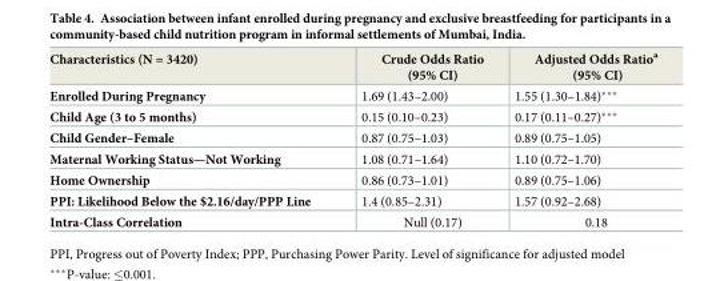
<table><thead><tr><td>Characteristics (N = 3420)</td><td>Crude Odds Ratio (95% CI)</td><td>Adjusted Odds Ratio<sup>a</sup> (95% CI)</td></tr></thead><tbody><tr><td>Enrolled During Pregnancy</td><td>1.69 (1.43–2.00)</td><td>1.55 (1.30–1.84)***</td></tr><tr><td>Child Age (3 to 5 months)</td><td>0.15 (0.10–0.23)</td><td>0.17 (0.11–0.27)***</td></tr><tr><td>Child Gender–Female</td><td>0.87 (0.75–1.03)</td><td>0.89 (0.75–1.05)</td></tr><tr><td>Maternal Working Status—Not Working</td><td>1.08 (0.71–1.64)</td><td>1.10 (0.72–1.70)</td></tr><tr><td>Home Ownership</td><td>0.86 (0.73–1.01)</td><td>0.89 (0.75–1.06)</td></tr><tr><td>PPI: Likelihood Below the $2.16/day/PPP Line</td><td>1.4 (0.85–2.31)</td><td>1.57 (0.92–2.68)</td></tr><tr><td>Intra-Class Correlation</td><td>Null (0.17)</td><td>0.18</td></tr></tbody></table>